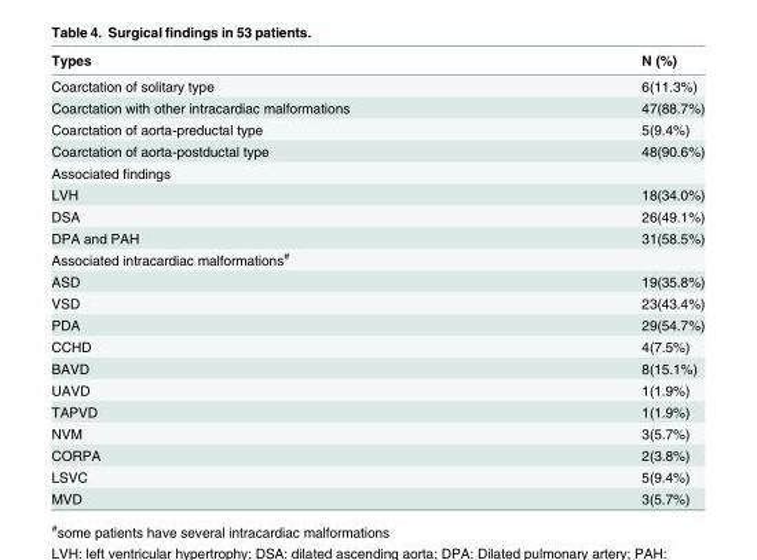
<table><thead><tr><td>Types</td><td>N (%)</td></tr></thead><tbody><tr><td>Coarctation of solitary type</td><td>6(11.3%)</td></tr><tr><td>Coarctation with other intracardiac malformations</td><td>47(88.7%)</td></tr><tr><td>Coarctation of aorta-preductal type</td><td>5(9.4%)</td></tr><tr><td>Coarctation of aorta-postductal type</td><td>48(90.6%)</td></tr><tr><td colspan="2">Associated findings</td></tr><tr><td>LVH</td><td>18(34.0%)</td></tr><tr><td>DSA</td><td>26(49.1%)</td></tr><tr><td>DPA and PAH</td><td>31(58.5%)</td></tr><tr><td colspan="2">Associated intracardiac malformations<sup>#</sup></td></tr><tr><td>ASD</td><td>19(35.8%)</td></tr><tr><td>VSD</td><td>23(43.4%)</td></tr><tr><td>PDA</td><td>29(54.7%)</td></tr><tr><td>CCHD</td><td>4(7.5%)</td></tr><tr><td>BAVD</td><td>8(15.1%)</td></tr><tr><td>UAVD</td><td>1(1.9%)</td></tr><tr><td>TAPVD</td><td>1(1.9%)</td></tr><tr><td>NVM</td><td>3(5.7%)</td></tr><tr><td>CORPA</td><td>2(3.8%)</td></tr><tr><td>LSVC</td><td>5(9.4%)</td></tr><tr><td>MVD</td><td>3(5.7%)</td></tr></tbody></table>